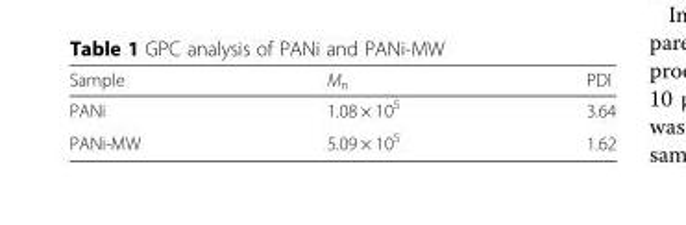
<table><thead><tr><td>Sample</td><td>M<sub>n</sub></td><td>PDI</td></tr></thead><tbody><tr><td>PANi</td><td>1.08 × 10<sup>5</sup></td><td>3.64</td></tr><tr><td>PANi-MW</td><td>5.09 × 10<sup>5</sup></td><td>1.62</td></tr></tbody></table>